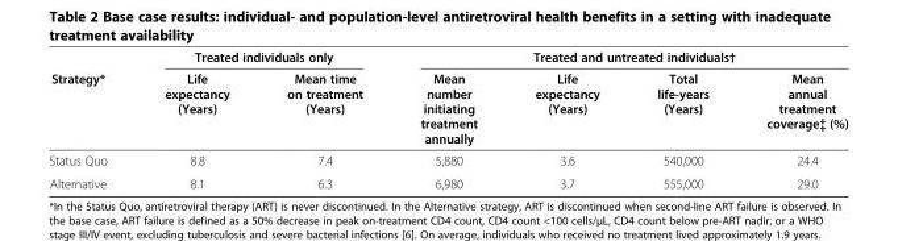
<table><thead><tr><td rowspan="2">Strategy*</td><td colspan="2">Treated individuals only</td><td colspan="4">Treated and untreated individuals†</td></tr><tr><td>Life expectancy (Years)</td><td>Mean time on treatment (Years)</td><td>Mean number initiating treatment annually</td><td>Life expectancy (Years)</td><td>Total life-years (Years)</td><td>Mean annual treatment coverage{{ (%)</td></tr></thead><tbody><tr><td>Status Quo</td><td>8.8</td><td>7.4</td><td>5,880</td><td>3.6</td><td>540,000</td><td>24.4</td></tr><tr><td>Alternative</td><td>8.1</td><td>6.3</td><td>6,980</td><td>3.7</td><td>555,000</td><td>29.0</td></tr></tbody></table>